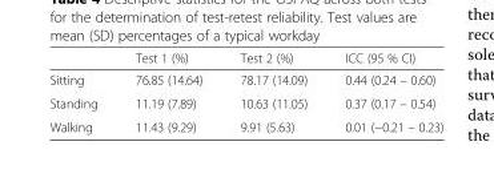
<table><thead><tr><td></td><td>Test 1 (%)</td><td>Test 2 (%)</td><td>ICC (95 % CI)</td></tr></thead><tbody><tr><td>Sitting</td><td>76.85 (14.64)</td><td>78.17 (14.09)</td><td>0.44 (0.24 – 0.60)</td></tr><tr><td>Standing</td><td>11.19 (7.89)</td><td>10.63 (11.05)</td><td>0.37 (0.17 – 0.54)</td></tr><tr><td>Walking</td><td>11.43 (9.29)</td><td>9.91 (5.63)</td><td>0.01 (−0.21 – 0.23)</td></tr></tbody></table>